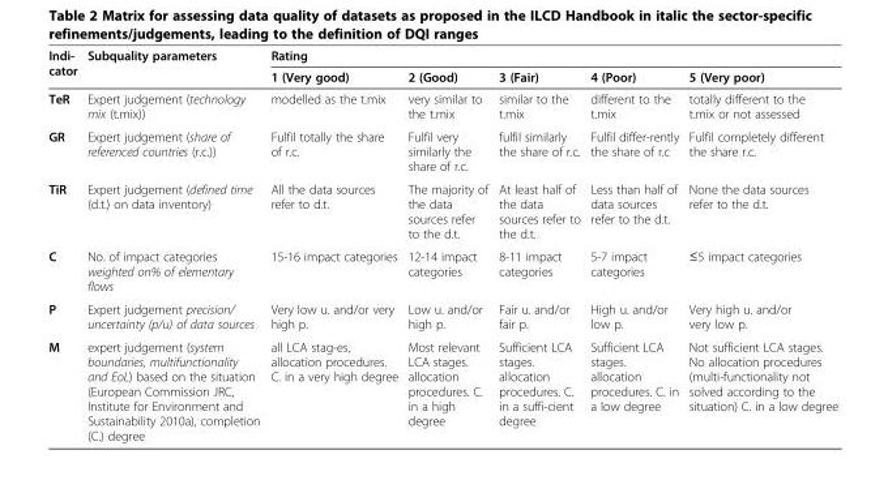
<table><thead><tr><td rowspan="2">Indi- cator</td><td rowspan="2">Subquality parameters</td><td colspan="5">Rating</td></tr><tr><td>1 (Very good)</td><td>2 (Good)</td><td>3 (Fair)</td><td>4 (Poor)</td><td>5 (Very poor)</td></tr></thead><tbody><tr><td>TeR</td><td>Expert judgement (technology mix (t.mix))</td><td>modelled as the t.mix</td><td>very similar to the t.mix</td><td>similar to the t.mix</td><td>different to the t.mix</td><td>totally different to the t.mix or not assessed</td></tr><tr><td>GR</td><td>Expert judgement (share of referenced countries (r.c.))</td><td>Fulfil totally the share of r.c.</td><td>Fulfil very similarly the share of r.c.</td><td>fulfil similarly the share of r.c.</td><td>Fulfil differ-rently the share of r.c</td><td>Fulfil completely different the share r.c.</td></tr><tr><td>TiR</td><td>Expert judgement (defined time (d.t.) on data inventory)</td><td>All the data sources refer to d.t.</td><td>The majority of the data sources refer to the d.t.</td><td>At least half of the data sources refer to the d.t.</td><td>Less than half of data sources refer to the d.t.</td><td>None the data sources refer to the d.t.</td></tr><tr><td>C</td><td>No. of impact categories weighted on% of elementary flows</td><td>15-16 impact categories</td><td>12-14 impact categories</td><td>8-11 impact categories</td><td>5-7 impact categories</td><td>≤5 impact categories</td></tr><tr><td>P</td><td>Expert judgement precision/ uncertainty (p/u) of data sources</td><td>Very low u. and/or very high p.</td><td>Low u. and/or high p.</td><td>Fair u. and/or fair p.</td><td>High u. and/or low p.</td><td>Very high u. and/or very low p.</td></tr><tr><td>M</td><td>expert judgement (system boundaries, multifunctionality and EoL) based on the situation (European Commission JRC, Institute for Environment and Sustainability 2010a), completion (C.) degree</td><td>all LCA stag-es, allocation procedures. C. in a very high degree</td><td>Most relevant LCA stages. allocation procedures. C. in a high degree</td><td>Sufficient LCA stages. allocation procedures. C. in a suffi-cient degree</td><td>Sufficient LCA stages. allocation procedures. C. in a low degree</td><td>Not sufficient LCA stages. No allocation procedures (multi-functionality not solved according to the situation) C. in a low degree</td></tr></tbody></table>